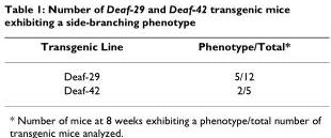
<table><thead><tr><td>Transgenic Line</td><td>Phenotype/Total*</td></tr></thead><tbody><tr><td>Deaf-29</td><td>5/12</td></tr><tr><td>Deaf-42</td><td>2/5</td></tr></tbody></table>